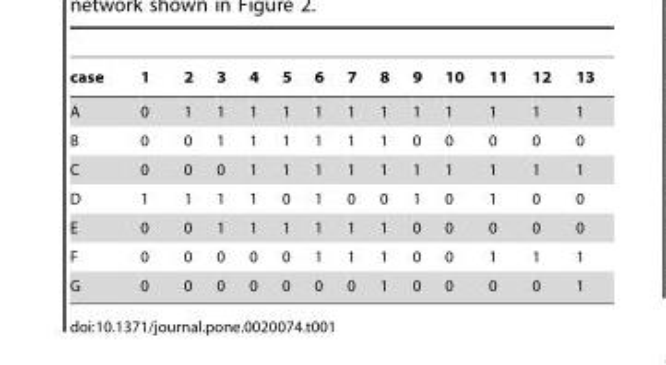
<table><thead><tr><td>case</td><td>1</td><td>2</td><td>3</td><td>4</td><td>5</td><td>6</td><td>7</td><td>8</td><td>9</td><td>10</td><td>11</td><td>12</td><td>13</td></tr></thead><tbody><tr><td>A</td><td>0</td><td>1</td><td>1</td><td>1</td><td>1</td><td>1</td><td>1</td><td>1</td><td>1</td><td>1</td><td>1</td><td>1</td><td>1</td></tr><tr><td>B</td><td>0</td><td>0</td><td>1</td><td>1</td><td>1</td><td>1</td><td>1</td><td>1</td><td>0</td><td>0</td><td>0</td><td>0</td><td>0</td></tr><tr><td>C</td><td>0</td><td>0</td><td>0</td><td>1</td><td>1</td><td>1</td><td>1</td><td>1</td><td>1</td><td>1</td><td>1</td><td>1</td><td>1</td></tr><tr><td>D</td><td>1</td><td>1</td><td>1</td><td>1</td><td>0</td><td>1</td><td>0</td><td>0</td><td>1</td><td>0</td><td>1</td><td>0</td><td>0</td></tr><tr><td>E</td><td>0</td><td>0</td><td>1</td><td>1</td><td>1</td><td>1</td><td>1</td><td>1</td><td>0</td><td>0</td><td>0</td><td>0</td><td>0</td></tr><tr><td>F</td><td>0</td><td>0</td><td>0</td><td>0</td><td>0</td><td>1</td><td>1</td><td>1</td><td>0</td><td>0</td><td>1</td><td>1</td><td>1</td></tr><tr><td>G</td><td>0</td><td>0</td><td>0</td><td>0</td><td>0</td><td>0</td><td>0</td><td>1</td><td>0</td><td>0</td><td>0</td><td>0</td><td>1</td></tr></tbody></table>